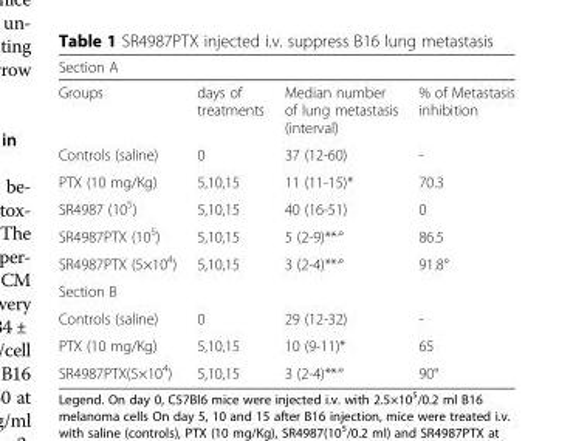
<table><thead><tr><td colspan="4">Section A</td></tr><tr><td>Groups</td><td>days of treatments</td><td>Median number of lung metastasis (interval)</td><td>% of Metastasis inhibition</td></tr></thead><tbody><tr><td>Controls (saline)</td><td>0</td><td>37 (12-60)</td><td>-</td></tr><tr><td>PTX (10 mg/Kg)</td><td>5,10,15</td><td>11 (11-15)*</td><td>70.3</td></tr><tr><td>SR4987 (10<sup>5</sup>)</td><td>5,10,15</td><td>40 (16-51)</td><td>0</td></tr><tr><td>SR4987PTX (10<sup>5</sup>)</td><td>5,10,15</td><td>5 (2-9)**<sup>,</sup>°</td><td>86.5</td></tr><tr><td>SR4987PTX (5×10<sup>4</sup>)</td><td>5,10,15</td><td>3 (2-4)**<sup>,</sup>°</td><td>91.8°</td></tr><tr><td colspan="4">Section B</td></tr><tr><td>Controls (saline)</td><td>0</td><td>29 (12-32)</td><td>-</td></tr><tr><td>PTX (10 mg/Kg)</td><td>5,10,15</td><td>10 (9-11)*</td><td>65</td></tr><tr><td>SR4987PTX(5×10<sup>4</sup>)</td><td>5,10,15</td><td>3 (2-4)**<sup>,</sup>°</td><td>90°</td></tr></tbody></table>